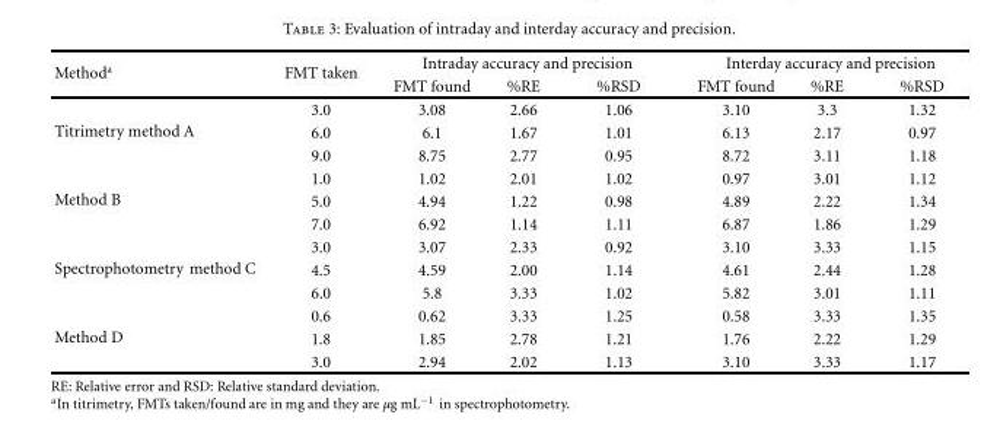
<table><thead><tr><td rowspan="2">Method<sup>a</sup></td><td rowspan="2">FMT taken</td><td colspan="3">Intraday accuracy and precision</td><td colspan="3">Interday accuracy and precision</td></tr><tr><td>FMT found</td><td>%RE</td><td>%RSD</td><td>FMT found</td><td>%RE</td><td>%RSD</td></tr></thead><tbody><tr><td rowspan="3">Titrimetry method A</td><td>3.0</td><td>3.08</td><td>2.66</td><td>1.06</td><td>3.10</td><td>3.3</td><td>1.32</td></tr><tr><td>6.0</td><td>6.1</td><td>1.67</td><td>1.01</td><td>6.13</td><td>2.17</td><td>0.97</td></tr><tr><td>9.0</td><td>8.75</td><td>2.77</td><td>0.95</td><td>8.72</td><td>3.11</td><td>1.18</td></tr><tr><td rowspan="3">Method B</td><td>1.0</td><td>1.02</td><td>2.01</td><td>1.02</td><td>0.97</td><td>3.01</td><td>1.12</td></tr><tr><td>5.0</td><td>4.94</td><td>1.22</td><td>0.98</td><td>4.89</td><td>2.22</td><td>1.34</td></tr><tr><td>7.0</td><td>6.92</td><td>1.14</td><td>1.11</td><td>6.87</td><td>1.86</td><td>1.29</td></tr><tr><td rowspan="3">Spectrophotometry method C</td><td>3.0</td><td>3.07</td><td>2.33</td><td>0.92</td><td>3.10</td><td>3.33</td><td>1.15</td></tr><tr><td>4.5</td><td>4.59</td><td>2.00</td><td>1.14</td><td>4.61</td><td>2.44</td><td>1.28</td></tr><tr><td>6.0</td><td>5.8</td><td>3.33</td><td>1.02</td><td>5.82</td><td>3.01</td><td>1.11</td></tr><tr><td rowspan="3">Method D</td><td>0.6</td><td>0.62</td><td>3.33</td><td>1.25</td><td>0.58</td><td>3.33</td><td>1.35</td></tr><tr><td>1.8</td><td>1.85</td><td>2.78</td><td>1.21</td><td>1.76</td><td>2.22</td><td>1.29</td></tr><tr><td>3.0</td><td>2.94</td><td>2.02</td><td>1.13</td><td>3.10</td><td>3.33</td><td>1.17</td></tr></tbody></table>